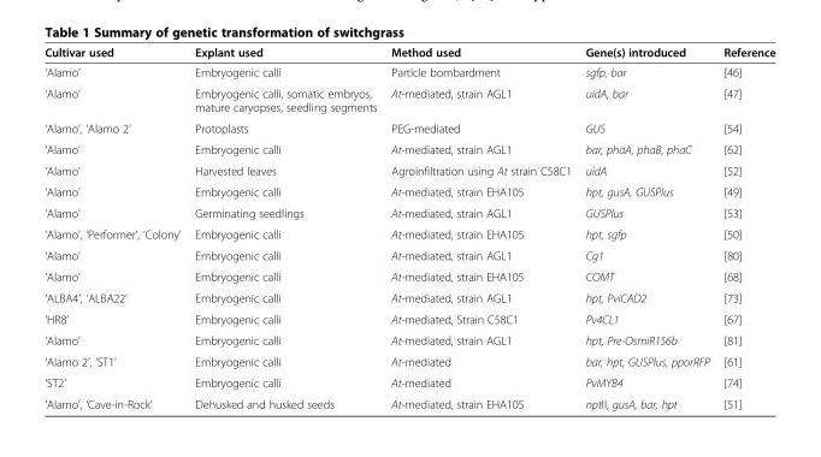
<table><thead><tr><td>Cultivar used</td><td>Explant used</td><td>Method used</td><td>Gene(s) introduced</td><td>Reference</td></tr></thead><tbody><tr><td>‘Alamo’</td><td>Embryogenic calli</td><td>Particle bombardment</td><td>sgfp, bar</td><td>[46]</td></tr><tr><td>‘Alamo’</td><td>Embryogenic calli, somatic embryos, mature caryopses, seedling segments</td><td>At-mediated, strain AGL1</td><td>uidA, bar</td><td>[47]</td></tr><tr><td>‘Alamo’, ‘Alamo 2’</td><td>Protoplasts</td><td>PEG-mediated</td><td>GUS</td><td>[54]</td></tr><tr><td>‘Alamo’</td><td>Embryogenic calli</td><td>At-mediated, strain AGL1</td><td>bar, phaA, phaB, phaC</td><td>[62]</td></tr><tr><td>‘Alamo’</td><td>Harvested leaves</td><td>Agroinfiltration using At strain C58C1</td><td>uidA</td><td>[52]</td></tr><tr><td>‘Alamo’</td><td>Embryogenic calli</td><td>At-mediated, strain EHA105</td><td>hpt, gusA, GUSPlus</td><td>[49]</td></tr><tr><td>‘Alamo’</td><td>Germinating seedlings</td><td>At-mediated, strain AGL1</td><td>GUSPlus</td><td>[53]</td></tr><tr><td>‘Alamo’, ‘Performer’, ‘Colony’</td><td>Embryogenic calli</td><td>At-mediated, strain EHA105</td><td>hpt, sgfp</td><td>[50]</td></tr><tr><td>‘Alamo’</td><td>Embryogenic calli</td><td>At-mediated, strain AGL1</td><td>Cg1</td><td>[80]</td></tr><tr><td>‘Alamo’</td><td>Embryogenic calli</td><td>At-mediated, strain EHA105</td><td>COMT</td><td>[68]</td></tr><tr><td>‘ALBA4’, ‘ALBA22’</td><td>Embryogenic calli</td><td>At-mediated, strain AGL1</td><td>hpt, PviCAD2</td><td>[73]</td></tr><tr><td>‘HR8’</td><td>Embryogenic calli</td><td>At-mediated, Strain C58C1</td><td>Pv4CL1</td><td>[67]</td></tr><tr><td>‘Alamo’</td><td>Embryogenic calli</td><td>At-mediated, strain AGL1</td><td>hpt, Pre-OsmiR156b</td><td>[81]</td></tr><tr><td>‘Alamo 2’, ‘ST1’</td><td>Embryogenic calli</td><td>At-mediated</td><td>bar, hpt, GUSPlus, pporRFP</td><td>[61]</td></tr><tr><td>‘ST2’</td><td>Embryogenic calli</td><td>At-mediated</td><td>PvMYB4</td><td>[74]</td></tr><tr><td>‘Alamo’, ‘Cave-in-Rock’</td><td>Dehusked and husked seeds</td><td>At-mediated, strain EHA105</td><td>nptII, gusA, bar, hpt</td><td>[51]</td></tr></tbody></table>